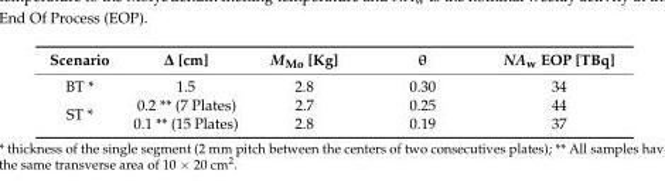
<table><thead><tr><td>Scenario</td><td>∆ [cm]</td><td>M<sub>Mo</sub> [Kg]</td><td>θ</td><td>NA<sub>w</sub> EOP [TBq]</td></tr></thead><tbody><tr><td>BT *</td><td>1.5</td><td>2.8</td><td>0.30</td><td>34</td></tr><tr><td>ST *</td><td>0.2 ** (7 Plates) 0.1 ** (15 Plates)</td><td>2.7 2.8</td><td>0.25 0.19</td><td>44 37</td></tr></tbody></table>